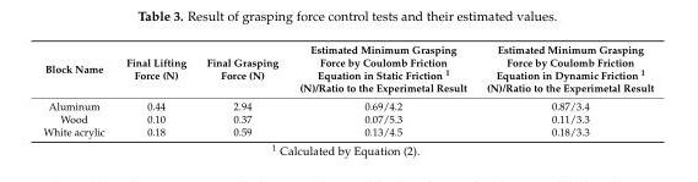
<table><thead><tr><td>Block Name</td><td>Final Lifting Force (N)</td><td>Final Grasping Force (N)</td><td>Estimated Minimum Grasping Force by Coulomb Friction Equation in Static Friction <sup>1</sup> (N)/Ratio to the Experimetal Result</td><td>Estimated Minimum Grasping Force by Coulomb Friction Equation in Dynamic Friction <sup>1</sup> (N)/Ratio to the Experimetal Result</td></tr></thead><tbody><tr><td>Aluminum</td><td>0.44</td><td>2.94</td><td>0.69/4.2</td><td>0.87/3.4</td></tr><tr><td>Wood</td><td>0.10</td><td>0.37</td><td>0.07/5.3</td><td>0.11/3.3</td></tr><tr><td>White acrylic</td><td>0.18</td><td>0.59</td><td>0.13/4.5</td><td>0.18/3.3</td></tr></tbody></table>